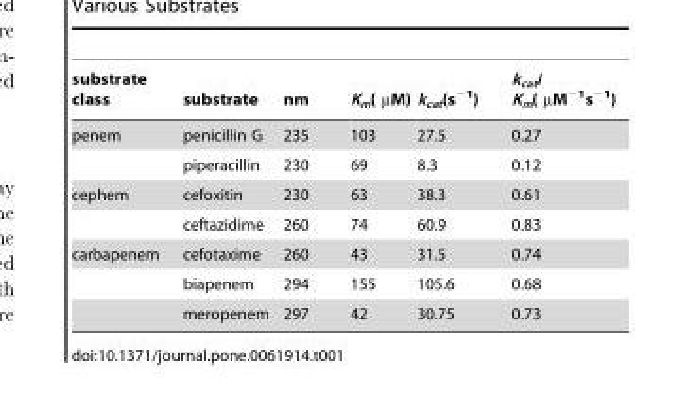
<table><thead><tr><td>substrate class</td><td>substrate</td><td>nm</td><td>K<sub>m</sub>( µM)</td><td>k<sub>cat</sub>(s<sup>−1</sup>)</td><td>k<sub>cat</sub>/ K<sub>m</sub>( µM<sup>−1</sup>s<sup>−1</sup>)</td></tr></thead><tbody><tr><td rowspan="2">penem</td><td>penicillin G</td><td>235</td><td>103</td><td>27.5</td><td>0.27</td></tr><tr><td>piperacillin</td><td>230</td><td>69</td><td>8.3</td><td>0.12</td></tr><tr><td rowspan="2">cephem</td><td>cefoxitin</td><td>230</td><td>63</td><td>38.3</td><td>0.61</td></tr><tr><td>ceftazidime</td><td>260</td><td>74</td><td>60.9</td><td>0.83</td></tr><tr><td rowspan="3">carbapenem</td><td>cefotaxime</td><td>260</td><td>43</td><td>31.5</td><td>0.74</td></tr><tr><td>biapenem</td><td>294</td><td>155</td><td>105.6</td><td>0.68</td></tr><tr><td>meropenem</td><td>297</td><td>42</td><td>30.75</td><td>0.73</td></tr></tbody></table>